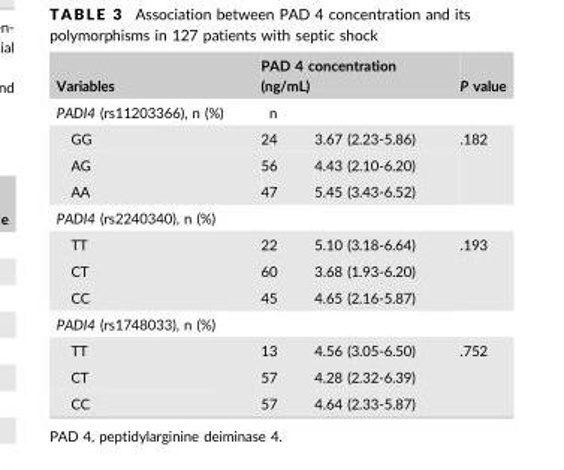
<table><thead><tr><td rowspan="2">Variables PADI4 (rs11203366), n (%)</td><td colspan="2">PAD 4 concentration (ng/mL)</td><td rowspan="2">P value</td></tr><tr><td>n</td><td></td></tr></thead><tbody><tr><td>GG</td><td>24</td><td>3.67 (2.23-5.86)</td><td rowspan="3">.182</td></tr><tr><td>AG</td><td>56</td><td>4.43 (2.10-6.20)</td></tr><tr><td>AA</td><td>47</td><td>5.45 (3.43-6.52)</td></tr><tr><td colspan="4">PADI4 (rs2240340), n (%)</td></tr><tr><td>TT</td><td>22</td><td>5.10 (3.18-6.64)</td><td rowspan="3">.193</td></tr><tr><td>CT</td><td>60</td><td>3.68 (1.93-6.20)</td></tr><tr><td>CC</td><td>45</td><td>4.65 (2.16-5.87)</td></tr><tr><td colspan="4">PADI4 (rs1748033), n (%)</td></tr><tr><td>TT</td><td>13</td><td>4.56 (3.05-6.50)</td><td rowspan="3">.752</td></tr><tr><td>CT</td><td>57</td><td>4.28 (2.32-6.39)</td></tr><tr><td>CC</td><td>57</td><td>4.64 (2.33-5.87)</td></tr></tbody></table>